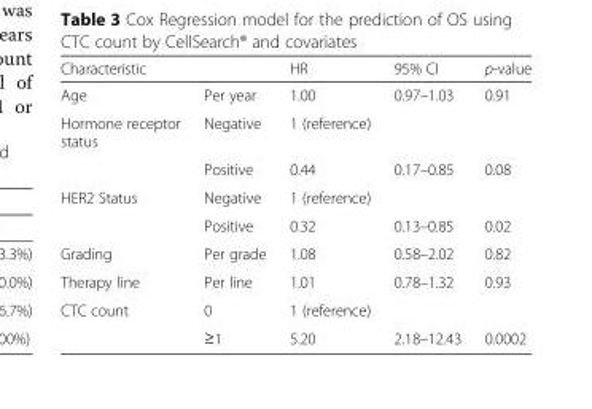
<table><thead><tr><td>Characteristic</td><td></td><td>HR</td><td>95% CI</td><td>p-value</td></tr></thead><tbody><tr><td>Age</td><td>Per year</td><td>1.00</td><td>0.97–1.03</td><td>0.91</td></tr><tr><td rowspan="2">Hormone receptor status</td><td>Negative</td><td>1 (reference)</td><td></td><td></td></tr><tr><td>Positive</td><td>0.44</td><td>0.17–0.85</td><td>0.08</td></tr><tr><td rowspan="2">HER2 Status</td><td>Negative</td><td>1 (reference)</td><td></td><td></td></tr><tr><td>Positive</td><td>0.32</td><td>0.13–0.85</td><td>0.02</td></tr><tr><td>Grading</td><td>Per grade</td><td>1.08</td><td>0.58–2.02</td><td>0.82</td></tr><tr><td>Therapy line</td><td>Per line</td><td>1.01</td><td>0.78–1.32</td><td>0.93</td></tr><tr><td rowspan="2">CTC count</td><td>0</td><td>1 (reference)</td><td></td><td></td></tr><tr><td>≥1</td><td>5.20</td><td>2.18–12.43</td><td>0.0002</td></tr></tbody></table>